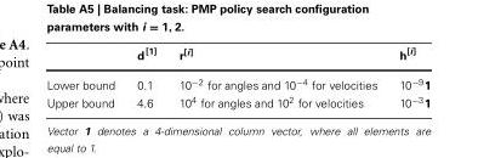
<table><thead><tr><td></td><td>d <sup>[1]</sup></td><td>r<sup>[i]</sup></td><td>h<sup>[i]</sup></td></tr></thead><tbody><tr><td>Lower bound</td><td>0.1</td><td>10<sup>−2</sup> for angles and 10<sup>−4</sup> for velocities</td><td>10<sup>−9</sup>1</td></tr><tr><td>Upper bound</td><td>4.6</td><td>10<sup>4</sup> for angles and 10<sup>2</sup> for velocities</td><td>10<sup>−3</sup>1</td></tr></tbody></table>